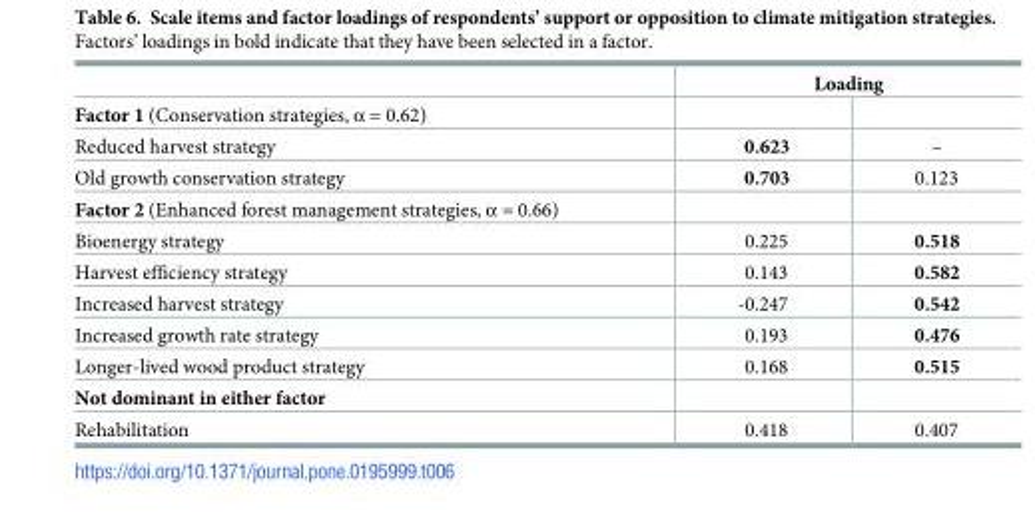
<table><thead><tr><td rowspan="2">Factor 1 (Conservation strategies, α = 0.62)</td><td colspan="2">Loading</td></tr><tr><td></td><td></td></tr></thead><tbody><tr><td>Reduced harvest strategy</td><td>0.623</td><td>–</td></tr><tr><td>Old growth conservation strategy</td><td>0.703</td><td>0.123</td></tr><tr><td colspan="3">Factor 2 (Enhanced forest management strategies, α = 0.66)</td></tr><tr><td>Bioenergy strategy</td><td>0.225</td><td>0.518</td></tr><tr><td>Harvest efficiency strategy</td><td>0.143</td><td>0.582</td></tr><tr><td>Increased harvest strategy</td><td>-0.247</td><td>0.542</td></tr><tr><td>Increased growth rate strategy</td><td>0.193</td><td>0.476</td></tr><tr><td>Longer-lived wood product strategy</td><td>0.168</td><td>0.515</td></tr><tr><td colspan="3">Not dominant in either factor</td></tr><tr><td>Rehabilitation</td><td>0.418</td><td>0.407</td></tr></tbody></table>